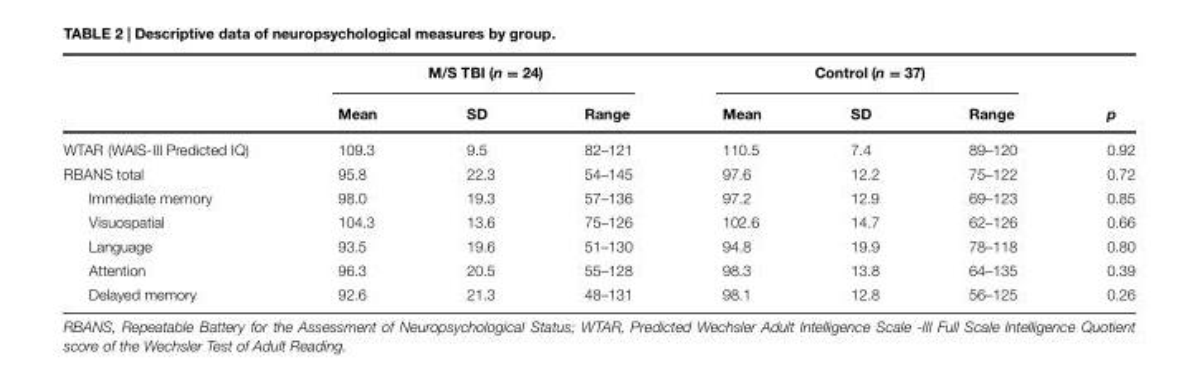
<table><thead><tr><td rowspan="2"></td><td colspan="3">M/S TBI (n = 24)</td><td colspan="3">Control (n = 37)</td><td rowspan="2">p</td></tr><tr><td>Mean</td><td>SD</td><td>Range</td><td>Mean</td><td>SD</td><td>Range</td></tr></thead><tbody><tr><td>WTAR (WAIS-III Predicted IQ)</td><td>109.3</td><td>9.5</td><td>82–121</td><td>110.5</td><td>7.4</td><td>89–120</td><td>0.92</td></tr><tr><td>RBANS total</td><td>95.8</td><td>22.3</td><td>54–145</td><td>97.6</td><td>12.2</td><td>75–122</td><td>0.72</td></tr><tr><td>Immediate memory</td><td>98.0</td><td>19.3</td><td>57–136</td><td>97.2</td><td>12.9</td><td>69–123</td><td>0.85</td></tr><tr><td>Visuospatial</td><td>104.3</td><td>13.6</td><td>75–126</td><td>102.6</td><td>14.7</td><td>62–126</td><td>0.66</td></tr><tr><td>Language</td><td>93.5</td><td>19.6</td><td>51–130</td><td>94.8</td><td>19.9</td><td>78–118</td><td>0.80</td></tr><tr><td>Attention</td><td>96.3</td><td>20.5</td><td>55–128</td><td>98.3</td><td>13.8</td><td>64–135</td><td>0.39</td></tr><tr><td>Delayed memory</td><td>92.6</td><td>21.3</td><td>48–131</td><td>98.1</td><td>12.8</td><td>56–125</td><td>0.26</td></tr></tbody></table>